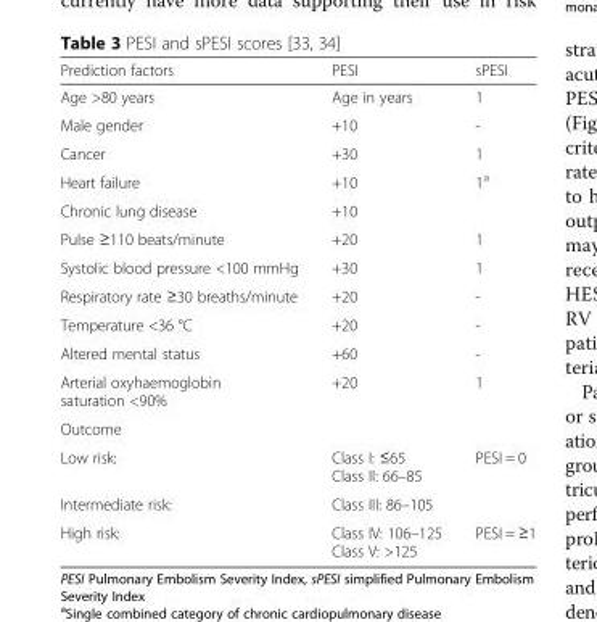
<table><thead><tr><td>Prediction factors</td><td>PESI</td><td>sPESI</td></tr></thead><tbody><tr><td>Age &gt;80 years</td><td>Age in years</td><td>1</td></tr><tr><td>Male gender</td><td>+10</td><td>-</td></tr><tr><td>Cancer</td><td>+30</td><td>1</td></tr><tr><td>Heart failure</td><td>+10</td><td rowspan="2">1<sup>a</sup></td></tr><tr><td>Chronic lung disease</td><td>+10</td></tr><tr><td>Pulse ≥110 beats/minute</td><td>+20</td><td>1</td></tr><tr><td>Systolic blood pressure &lt;100 mmHg</td><td>+30</td><td>1</td></tr><tr><td>Respiratory rate ≥30 breaths/minute</td><td>+20</td><td>-</td></tr><tr><td>Temperature &lt;36 °C</td><td>+20</td><td>-</td></tr><tr><td>Altered mental status</td><td>+60</td><td>-</td></tr><tr><td>Arterial oxyhaemoglobin saturation &lt;90%</td><td>+20</td><td>1</td></tr><tr><td colspan="3">Outcome</td></tr><tr><td>Low risk:</td><td>Class I: ≤65 Class II: 66–85</td><td>PESI = 0</td></tr><tr><td>Intermediate risk:</td><td>Class III: 86–105</td><td></td></tr><tr><td>High risk:</td><td>Class IV: 106–125 Class V: &gt;125</td><td>PESI = ≥1</td></tr></tbody></table>